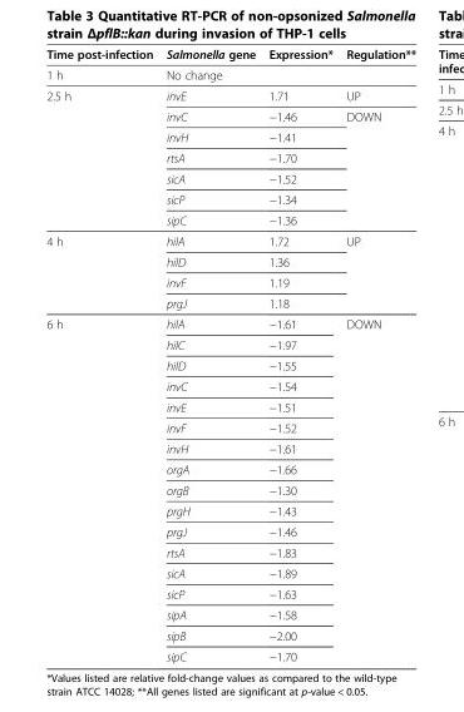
<table><thead><tr><td>Time post-infection</td><td>Salmonella gene</td><td>Expression*</td><td>Regulation**</td></tr></thead><tbody><tr><td>1 h</td><td>No change</td><td></td><td></td></tr><tr><td rowspan="7">2.5 h</td><td>invE</td><td>1.71</td><td>UP</td></tr><tr><td>invC</td><td>−1.46</td><td rowspan="6">DOWN</td></tr><tr><td>invH</td><td>−1.41</td></tr><tr><td>rtsA</td><td>−1.70</td></tr><tr><td>sicA</td><td>−1.52</td></tr><tr><td>sicP</td><td>−1.34</td></tr><tr><td>sipC</td><td>−1.36</td></tr><tr><td rowspan="4">4 h</td><td>hilA</td><td>1.72</td><td>UP</td></tr><tr><td>hilD</td><td>1.36</td><td></td></tr><tr><td>invF</td><td>1.19</td><td></td></tr><tr><td>prgJ</td><td>1.18</td><td></td></tr><tr><td rowspan="17">6 h</td><td>hilA</td><td>−1.61</td><td rowspan="17">DOWN</td></tr><tr><td>hilC</td><td>−1.97</td></tr><tr><td>hilD</td><td>−1.55</td></tr><tr><td>invC</td><td>−1.54</td></tr><tr><td>invE</td><td>−1.51</td></tr><tr><td>invF</td><td>−1.52</td></tr><tr><td>invH</td><td>−1.61</td></tr><tr><td>orgA</td><td>−1.66</td></tr><tr><td>orgB</td><td>−1.30</td></tr><tr><td>prgH</td><td>−1.43</td></tr><tr><td>prgJ</td><td>−1.46</td></tr><tr><td>rtsA</td><td>−1.83</td></tr><tr><td>sicA</td><td>−1.89</td></tr><tr><td>sicP</td><td>−1.63</td></tr><tr><td>sipA</td><td>−1.58</td></tr><tr><td>sipB</td><td>−2.00</td></tr><tr><td>sipC</td><td>−1.70</td></tr></tbody></table>